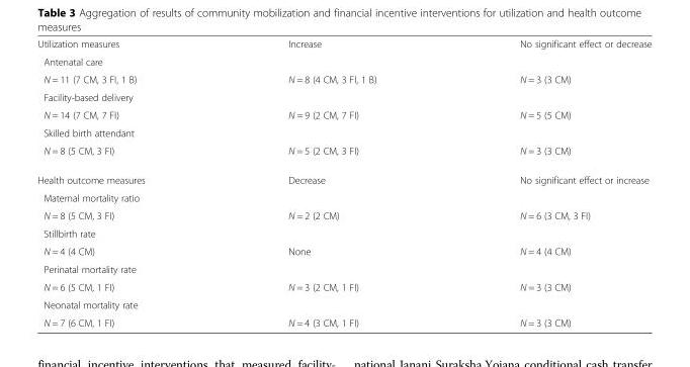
<table><tbody><tr><td>Utilization measures</td><td>Increase</td><td>No significant effect or decrease</td></tr><tr><td colspan="3">Antenatal care</td></tr><tr><td>N = 11 (7 CM, 3 FI, 1 B)</td><td>N = 8 (4 CM, 3 FI, 1 B)</td><td>N = 3 (3 CM)</td></tr><tr><td colspan="3">Facility-based delivery</td></tr><tr><td>N = 14 (7 CM, 7 FI)</td><td>N = 9 (2 CM, 7 FI)</td><td>N = 5 (5 CM)</td></tr><tr><td colspan="3">Skilled birth attendant</td></tr><tr><td>N = 8 (5 CM, 3 FI)</td><td>N = 5 (2 CM, 3 FI)</td><td>N = 3 (3 CM)</td></tr><tr><td>Health outcome measures</td><td>Decrease</td><td>No significant effect or increase</td></tr><tr><td colspan="3">Maternal mortality ratio</td></tr><tr><td>N = 8 (5 CM, 3 FI)</td><td>N = 2 (2 CM)</td><td>N = 6 (3 CM, 3 FI)</td></tr><tr><td colspan="3">Stillbirth rate</td></tr><tr><td>N = 4 (4 CM)</td><td>None</td><td>N = 4 (4 CM)</td></tr><tr><td colspan="3">Perinatal mortality rate</td></tr><tr><td>N = 6 (5 CM, 1 FI)</td><td>N = 3 (2 CM, 1 FI)</td><td>N = 3 (3 CM)</td></tr><tr><td colspan="3">Neonatal mortality rate</td></tr><tr><td>N = 7 (6 CM, 1 FI)</td><td>N = 4 (3 CM, 1 FI)</td><td>N = 3 (3 CM)</td></tr></tbody></table>